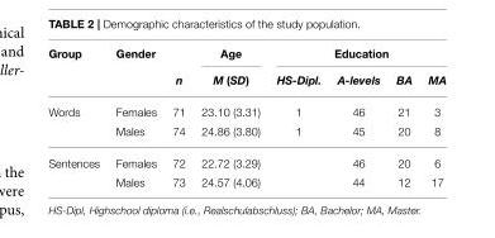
<table><thead><tr><td rowspan="2">Group</td><td rowspan="2">Gender</td><td rowspan="2">n</td><td rowspan="2">Age M (SD)</td><td colspan="4">Education</td></tr><tr><td>HS-Dipl.</td><td>A-levels</td><td>BA</td><td>MA</td></tr></thead><tbody><tr><td rowspan="2">Words</td><td>Females</td><td>71</td><td>23.10 (3.31)</td><td>1</td><td>46</td><td>21</td><td>3</td></tr><tr><td>Males</td><td>74</td><td>24.86 (3.80)</td><td>1</td><td>45</td><td>20</td><td>8</td></tr><tr><td rowspan="2">Sentences</td><td>Females</td><td>72</td><td>22.72 (3.29)</td><td></td><td>46</td><td>20</td><td>6</td></tr><tr><td>Males</td><td>73</td><td>24.57 (4.06)</td><td></td><td>44</td><td>12</td><td>17</td></tr></tbody></table>